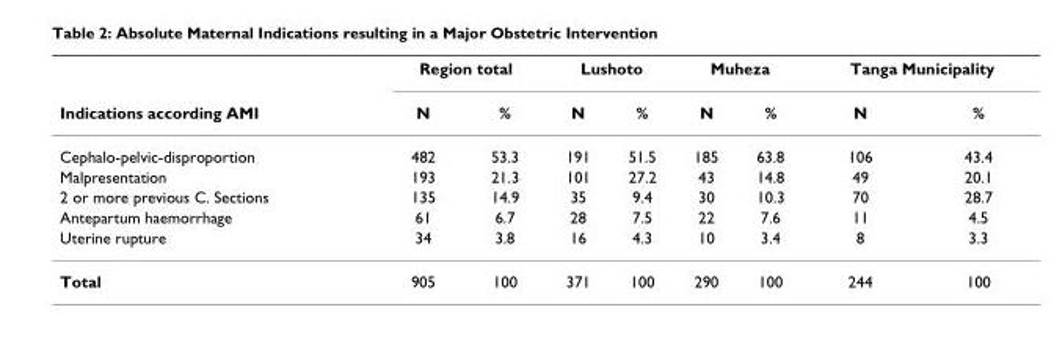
<table><thead><tr><td rowspan="2">Indications according AMI</td><td colspan="2">Region total</td><td colspan="2">Lushoto</td><td colspan="2">Muheza</td><td colspan="2">Tanga Municipality</td></tr><tr><td>N</td><td>%</td><td>N</td><td>%</td><td>N</td><td>%</td><td>N</td><td>%</td></tr></thead><tbody><tr><td>Cephalo-pelvic-disproportion</td><td>482</td><td>53.3</td><td>191</td><td>51.5</td><td>185</td><td>63.8</td><td>106</td><td>43.4</td></tr><tr><td>Malpresentation</td><td>193</td><td>21.3</td><td>101</td><td>27.2</td><td>43</td><td>14.8</td><td>49</td><td>20.1</td></tr><tr><td>2 or more previous C. Sections</td><td>135</td><td>14.9</td><td>35</td><td>9.4</td><td>30</td><td>10.3</td><td>70</td><td>28.7</td></tr><tr><td>Antepartum haemorrhage</td><td>61</td><td>6.7</td><td>28</td><td>7.5</td><td>22</td><td>7.6</td><td>11</td><td>4.5</td></tr><tr><td>Uterine rupture</td><td>34</td><td>3.8</td><td>16</td><td>4.3</td><td>10</td><td>3.4</td><td>8</td><td>3.3</td></tr><tr><td>Total</td><td>905</td><td>100</td><td>371</td><td>100</td><td>290</td><td>100</td><td>244</td><td>100</td></tr></tbody></table>